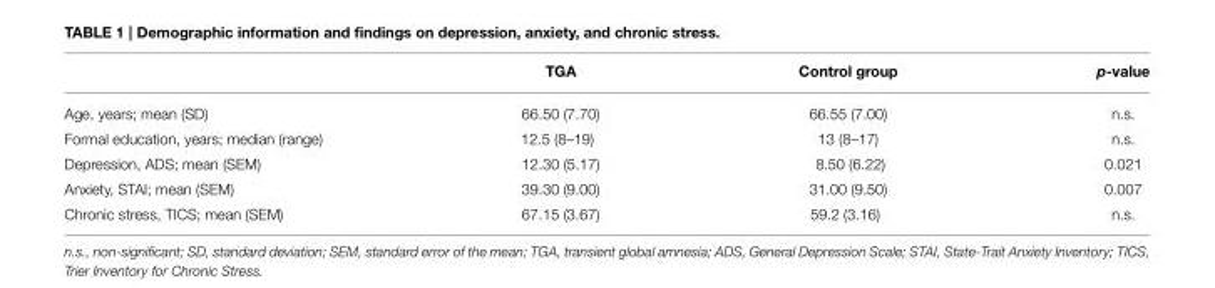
<table><thead><tr><td></td><td>TGA</td><td>Control group</td><td>p-value</td></tr></thead><tbody><tr><td>Age, years; mean (SD)</td><td>66.50 (7.70)</td><td>66.55 (7.00)</td><td>n.s.</td></tr><tr><td>Formal education, years; median (range)</td><td>12.5 (8–19)</td><td>13 (8–17)</td><td>n.s.</td></tr><tr><td>Depression, ADS; mean (SEM)</td><td>12.30 (5.17)</td><td>8.50 (6.22)</td><td>0.021</td></tr><tr><td>Anxiety, STAI; mean (SEM)</td><td>39.30 (9.00)</td><td>31.00 (9.50)</td><td>0.007</td></tr><tr><td>Chronic stress, TICS; mean (SEM)</td><td>67.15 (3.67)</td><td>59.2 (3.16)</td><td>n.s.</td></tr></tbody></table>